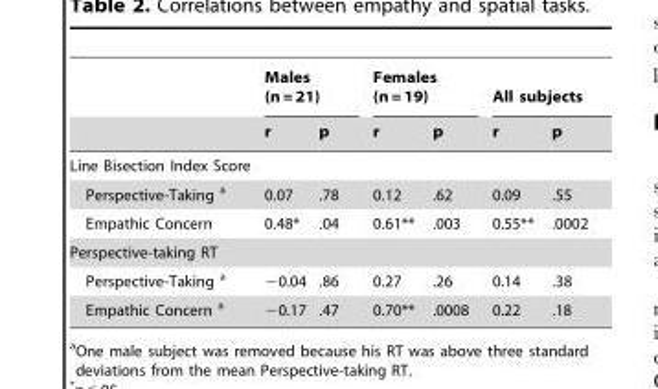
<table><thead><tr><td rowspan="2"></td><td colspan="2">Males (n = 21)</td><td colspan="2">Females (n = 19)</td><td colspan="2">All subjects</td></tr><tr><td>r</td><td>p</td><td>r</td><td>p</td><td>r</td><td>p</td></tr></thead><tbody><tr><td colspan="7">Line Bisection Index Score</td></tr><tr><td>Perspective-Taking a</td><td>0.07</td><td>.78</td><td>0.12</td><td>.62</td><td>0.09</td><td>.55</td></tr><tr><td>Empathic Concern</td><td>0.48*</td><td>.04</td><td>0.61**</td><td>.003</td><td>0.55**</td><td>.0002</td></tr><tr><td colspan="7">Perspective-taking RT</td></tr><tr><td>Perspective-Taking a</td><td>−0.04</td><td>.86</td><td>0.27</td><td>.26</td><td>0.14</td><td>.38</td></tr><tr><td>Empathic Concern a</td><td>−0.17</td><td>.47</td><td>0.70**</td><td>.0008</td><td>0.22</td><td>.18</td></tr></tbody></table>